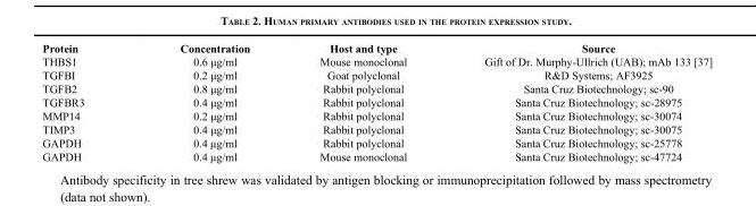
<table><thead><tr><td>Protein</td><td>Concentration</td><td>Host and type</td><td>Source</td></tr></thead><tbody><tr><td>THBS1</td><td>0.6 μg/ml</td><td>Mouse monoclonal</td><td>Gift of Dr. Murphy-Ullrich (UAB); mAb 133 [37]</td></tr><tr><td>TGFBI</td><td>0.2 μg/ml</td><td>Goat polyclonal</td><td>R&amp;D Systems; AF3925</td></tr><tr><td>TGFB2</td><td>0.8 μg/ml</td><td>Rabbit polyclonal</td><td>Santa Cruz Biotechnology; sc-90</td></tr><tr><td>TGFBR3</td><td>0.4 μg/ml</td><td>Rabbit polyclonal</td><td>Santa Cruz Biotechnology; sc-28975</td></tr><tr><td>MMP14</td><td>0.2 μg/ml</td><td>Rabbit polyclonal</td><td>Santa Cruz Biotechnology; sc-30074</td></tr><tr><td>TIMP3</td><td>0.4 μg/ml</td><td>Rabbit polyclonal</td><td>Santa Cruz Biotechnology; sc-30075</td></tr><tr><td>GAPDH</td><td>0.4 μg/ml</td><td>Rabbit polyclonal</td><td>Santa Cruz Biotechnology; sc-25778</td></tr><tr><td>GAPDH</td><td>0.4 μg/ml</td><td>Mouse monoclonal</td><td>Santa Cruz Biotechnology; sc-47724</td></tr></tbody></table>